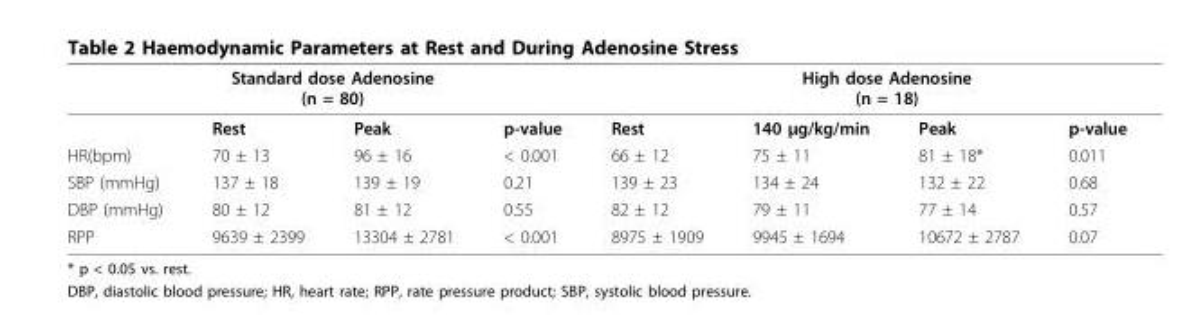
<table><thead><tr><td colspan="4">Standard dose Adenosine (n = 80)</td><td colspan="4">High dose Adenosine (n = 18)</td></tr><tr><td></td><td>Rest</td><td>Peak</td><td>p-value</td><td>Rest</td><td>140 μg/kg/min</td><td>Peak</td><td>p-value</td></tr></thead><tbody><tr><td>HR(bpm)</td><td>70 ± 13</td><td>96 ± 16</td><td>&lt; 0.001</td><td>66 ± 12</td><td>75 ± 11</td><td>81 ± 18*</td><td>0.011</td></tr><tr><td>SBP (mmHg)</td><td>137 ± 18</td><td>139 ± 19</td><td>0.21</td><td>139 ± 23</td><td>134 ± 24</td><td>132 ± 22</td><td>0.68</td></tr><tr><td>DBP (mmHg)</td><td>80 ± 12</td><td>81 ± 12</td><td>0.55</td><td>82 ± 12</td><td>79 ± 11</td><td>77 ± 14</td><td>0.57</td></tr><tr><td>RPP</td><td>9639 ± 2399</td><td>13304 ± 2781</td><td>&lt; 0.001</td><td>8975 ± 1909</td><td>9945 ± 1694</td><td>10672 ± 2787</td><td>0.07</td></tr></tbody></table>